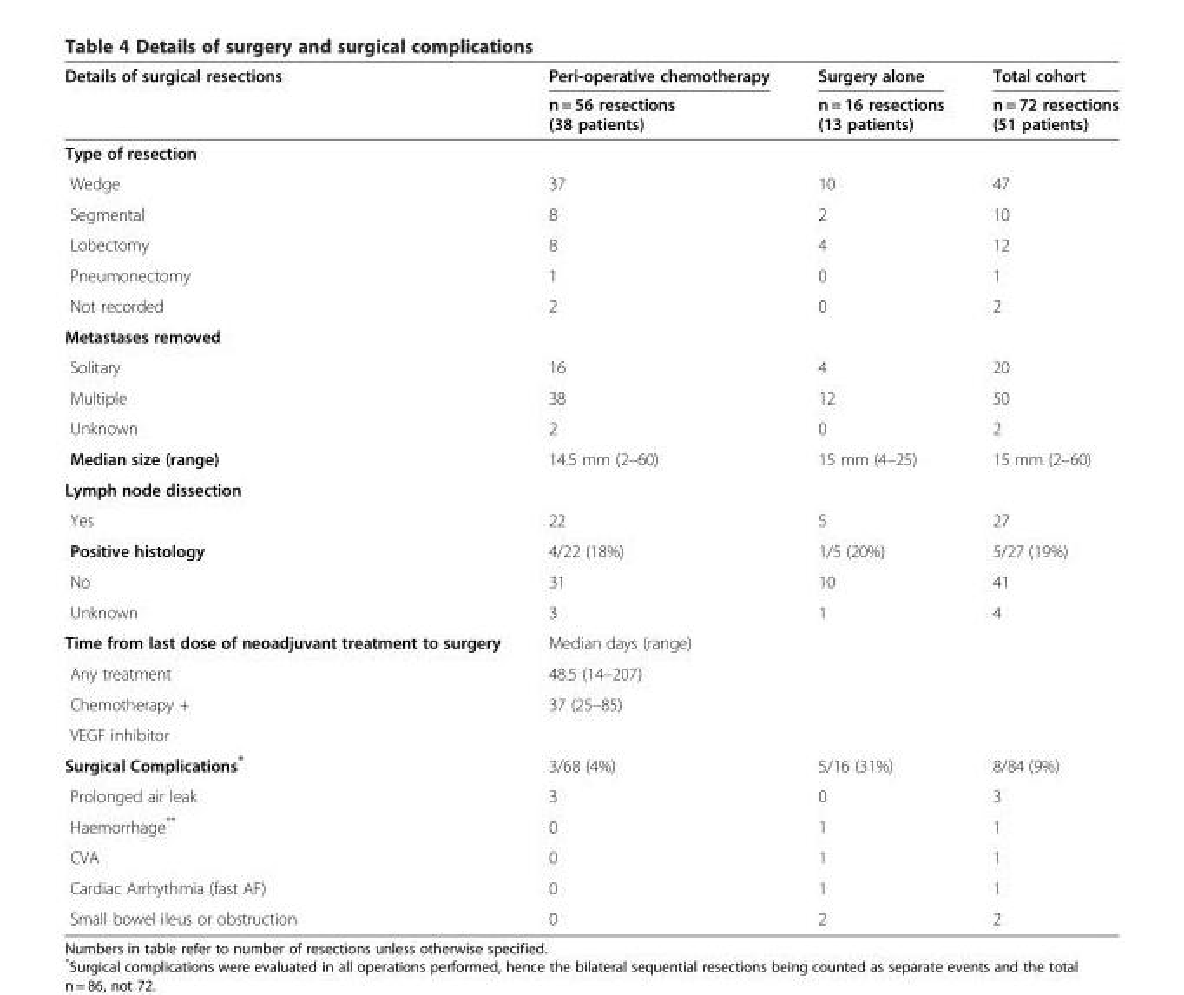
<table><thead><tr><td rowspan="2">Details of surgical resections</td><td rowspan="2">Peri-operative chemotherapy n = 56 resections (38 patients)</td><td rowspan="2">Surgery alone n = 16 resections (13 patients)</td><td rowspan="2">Total cohort n = 72 resections (51 patients)</td></tr><tr></tr></thead><tbody><tr><td colspan="4">Type of resection</td></tr><tr><td>Wedge</td><td>37</td><td>10</td><td>47</td></tr><tr><td>Segmental</td><td>8</td><td>2</td><td>10</td></tr><tr><td>Lobectomy</td><td>8</td><td>4</td><td>12</td></tr><tr><td>Pneumonectomy</td><td>1</td><td>0</td><td>1</td></tr><tr><td>Not recorded</td><td>2</td><td>0</td><td>2</td></tr><tr><td colspan="4">Metastases removed</td></tr><tr><td>Solitary</td><td>16</td><td>4</td><td>20</td></tr><tr><td>Multiple</td><td>38</td><td>12</td><td>50</td></tr><tr><td>Unknown</td><td>2</td><td>0</td><td>2</td></tr><tr><td>Median size (range)</td><td>14.5 mm (2–60)</td><td>15 mm (4–25)</td><td>15 mm (2–60)</td></tr><tr><td colspan="4">Lymph node dissection</td></tr><tr><td>Yes</td><td>22</td><td>5</td><td>27</td></tr><tr><td>Positive histology</td><td>4/22 (18%)</td><td>1/5 (20%)</td><td>5/27 (19%)</td></tr><tr><td>No</td><td>31</td><td>10</td><td>41</td></tr><tr><td>Unknown</td><td>3</td><td>1</td><td>4</td></tr><tr><td>Time from last dose of neoadjuvant treatment to surgery</td><td>Median days (range)</td><td></td><td></td></tr><tr><td>Any treatment</td><td>48.5 (14–207)</td><td></td><td></td></tr><tr><td>Chemotherapy +</td><td>37 (25–85)</td><td></td><td></td></tr><tr><td colspan="4">VEGF inhibitor</td></tr><tr><td>Surgical Complications*</td><td>3/68 (4%)</td><td>5/16 (31%)</td><td>8/84 (9%)</td></tr><tr><td>Prolonged air leak</td><td>3</td><td>0</td><td>3</td></tr><tr><td>Haemorrhage**</td><td>0</td><td>1</td><td>1</td></tr><tr><td>CVA</td><td>0</td><td>1</td><td>1</td></tr><tr><td>Cardiac Arrhythmia (fast AF)</td><td>0</td><td>1</td><td>1</td></tr><tr><td>Small bowel ileus or obstruction</td><td>0</td><td>2</td><td>2</td></tr></tbody></table>